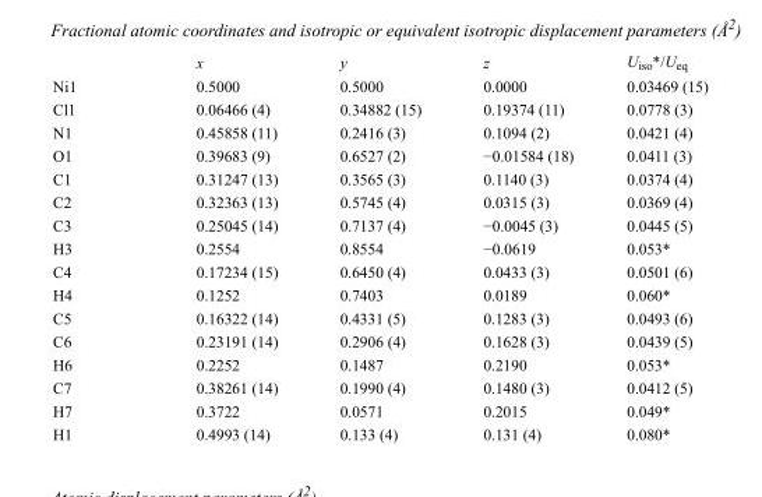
<table><thead><tr><td></td><td>x</td><td>y</td><td>z</td><td>U<sub>iso</sub>*/U<sub>eq</sub></td></tr></thead><tbody><tr><td>Ni1</td><td>0.5000</td><td>0.5000</td><td>0.0000</td><td>0.03469 (15)</td></tr><tr><td>Cl1</td><td>0.06466 (4)</td><td>0.34882 (15)</td><td>0.19374 (11)</td><td>0.0778 (3)</td></tr><tr><td>N1</td><td>0.45858 (11)</td><td>0.2416 (3)</td><td>0.1094 (2)</td><td>0.0421 (4)</td></tr><tr><td>O1</td><td>0.39683 (9)</td><td>0.6527 (2)</td><td>−0.01584 (18)</td><td>0.0411 (3)</td></tr><tr><td>C1</td><td>0.31247 (13)</td><td>0.3565 (3)</td><td>0.1140 (3)</td><td>0.0374 (4)</td></tr><tr><td>C2</td><td>0.32363 (13)</td><td>0.5745 (4)</td><td>0.0315 (3)</td><td>0.0369 (4)</td></tr><tr><td>C3</td><td>0.25045 (14)</td><td>0.7137 (4)</td><td>−0.0045 (3)</td><td>0.0445 (5)</td></tr><tr><td>H3</td><td>0.2554</td><td>0.8554</td><td>−0.0619</td><td>0.053*</td></tr><tr><td>C4</td><td>0.17234 (15)</td><td>0.6450 (4)</td><td>0.0433 (3)</td><td>0.0501 (6)</td></tr><tr><td>H4</td><td>0.1252</td><td>0.7403</td><td>0.0189</td><td>0.060*</td></tr><tr><td>C5</td><td>0.16322 (14)</td><td>0.4331 (5)</td><td>0.1283 (3)</td><td>0.0493 (6)</td></tr><tr><td>C6</td><td>0.23191 (14)</td><td>0.2906 (4)</td><td>0.1628 (3)</td><td>0.0439 (5)</td></tr><tr><td>H6</td><td>0.2252</td><td>0.1487</td><td>0.2190</td><td>0.053*</td></tr><tr><td>C7</td><td>0.38261 (14)</td><td>0.1990 (4)</td><td>0.1480 (3)</td><td>0.0412 (5)</td></tr><tr><td>H7</td><td>0.3722</td><td>0.0571</td><td>0.2015</td><td>0.049*</td></tr><tr><td>H1</td><td>0.4993 (14)</td><td>0.133 (4)</td><td>0.131 (4)</td><td>0.080*</td></tr></tbody></table>